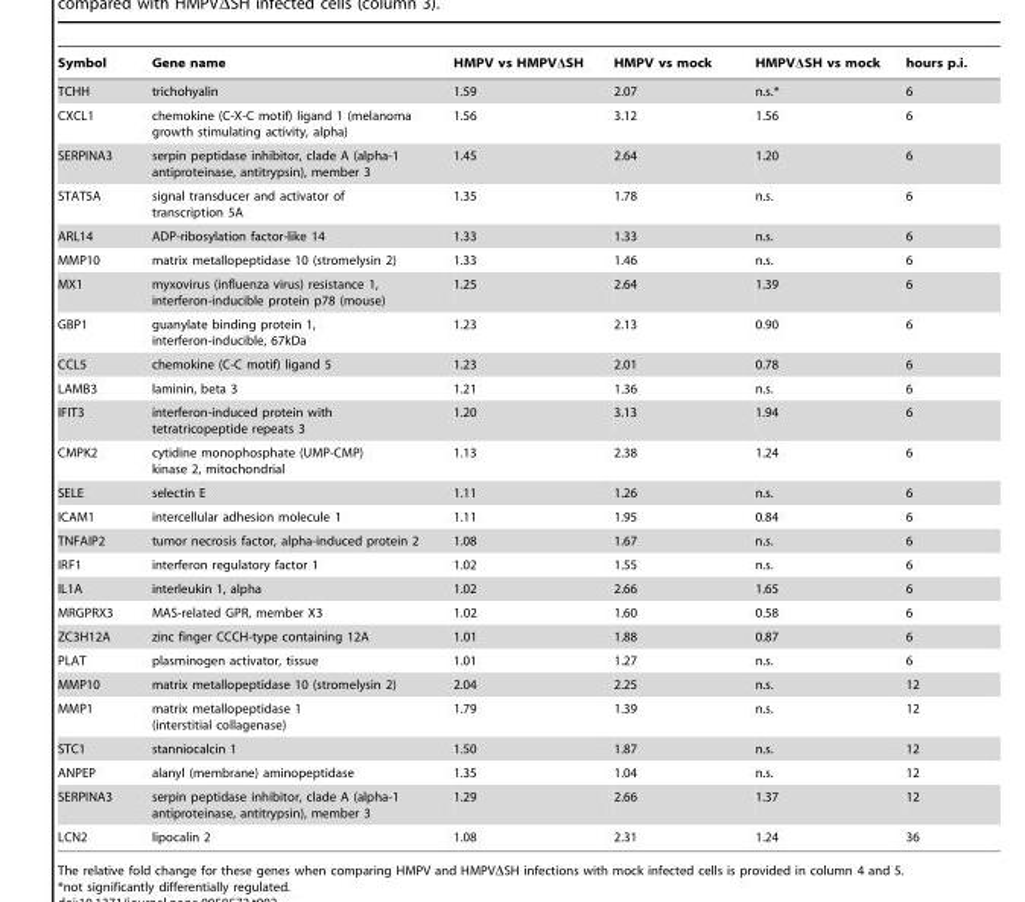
<table><thead><tr><td>Symbol</td><td>Gene name</td><td>HMPV vs HMPVΔSH</td><td>HMPV vs mock</td><td>HMPVΔSH vs mock</td><td>hours p.i.</td></tr></thead><tbody><tr><td>TCHH</td><td>trichohyalin</td><td>1.59</td><td>2.07</td><td>n.s.*</td><td>6</td></tr><tr><td>CXCL1</td><td>chemokine (C-X-C motif) ligand 1 (melanoma growth stimulating activity, alpha)</td><td>1.56</td><td>3.12</td><td>1.56</td><td>6</td></tr><tr><td>SERPINA3</td><td>serpin peptidase inhibitor, clade A (alpha-1 antiproteinase, antitrypsin), member 3</td><td>1.45</td><td>2.64</td><td>1.20</td><td>6</td></tr><tr><td>STAT5A</td><td>signal transducer and activator of transcription 5A</td><td>1.35</td><td>1.78</td><td>n.s.</td><td>6</td></tr><tr><td>ARL14</td><td>ADP-ribosylation factor-like 14</td><td>1.33</td><td>1.33</td><td>n.s.</td><td>6</td></tr><tr><td>MMP10</td><td>matrix metallopeptidase 10 (stromelysin 2)</td><td>1.33</td><td>1.46</td><td>n.s.</td><td>6</td></tr><tr><td>MX1</td><td>myxovirus (influenza virus) resistance 1, interferon-inducible protein p78 (mouse)</td><td>1.25</td><td>2.64</td><td>1.39</td><td>6</td></tr><tr><td>GBP1</td><td>guanylate binding protein 1, interferon-inducible, 67kDa</td><td>1.23</td><td>2.13</td><td>0.90</td><td>6</td></tr><tr><td>CCL5</td><td>chemokine (C-C motif) ligand 5</td><td>1.23</td><td>2.01</td><td>0.78</td><td>6</td></tr><tr><td>LAMB3</td><td>laminin, beta 3</td><td>1.21</td><td>1.36</td><td>n.s.</td><td>6</td></tr><tr><td>IFIT3</td><td>interferon-induced protein with tetratricopeptide repeats 3</td><td>1.20</td><td>3.13</td><td>1.94</td><td>6</td></tr><tr><td>CMPK2</td><td>cytidine monophosphate (UMP-CMP) kinase 2, mitochondrial</td><td>1.13</td><td>2.38</td><td>1.24</td><td>6</td></tr><tr><td>SELE</td><td>selectin E</td><td>1.11</td><td>1.26</td><td>n.s.</td><td>6</td></tr><tr><td>ICAM1</td><td>intercellular adhesion molecule 1</td><td>1.11</td><td>1.95</td><td>0.84</td><td>6</td></tr><tr><td>TNFAIP2</td><td>tumor necrosis factor, alpha-induced protein 2</td><td>1.08</td><td>1.67</td><td>n.s.</td><td>6</td></tr><tr><td>IRF1</td><td>interferon regulatory factor 1</td><td>1.02</td><td>1.55</td><td>n.s.</td><td>6</td></tr><tr><td>IL1A</td><td>interleukin 1, alpha</td><td>1.02</td><td>2.66</td><td>1.65</td><td>6</td></tr><tr><td>MRGPRX3</td><td>MAS-related GPR, member X3</td><td>1.02</td><td>1.60</td><td>0.58</td><td>6</td></tr><tr><td>ZC3H12A</td><td>zinc finger CCCH-type containing 12A</td><td>1.01</td><td>1.88</td><td>0.87</td><td>6</td></tr><tr><td>PLAT</td><td>plasminogen activator, tissue</td><td>1.01</td><td>1.27</td><td>n.s.</td><td>6</td></tr><tr><td>MMP10</td><td>matrix metallopeptidase 10 (stromelysin 2)</td><td>2.04</td><td>2.25</td><td>n.s.</td><td>12</td></tr><tr><td>MMP1</td><td>matrix metallopeptidase 1 (interstitial collagenase)</td><td>1.79</td><td>1.39</td><td>n.s.</td><td>12</td></tr><tr><td>STC1</td><td>stanniocalcin 1</td><td>1.50</td><td>1.87</td><td>n.s.</td><td>12</td></tr><tr><td>ANPEP</td><td>alanyl (membrane) aminopeptidase</td><td>1.35</td><td>1.04</td><td>n.s.</td><td>12</td></tr><tr><td>SERPINA3</td><td>serpin peptidase inhibitor, clade A (alpha-1 antiproteinase, antitrypsin), member 3</td><td>1.29</td><td>2.66</td><td>1.37</td><td>12</td></tr><tr><td>LCN2</td><td>lipocalin 2</td><td>1.08</td><td>2.31</td><td>1.24</td><td>36</td></tr></tbody></table>